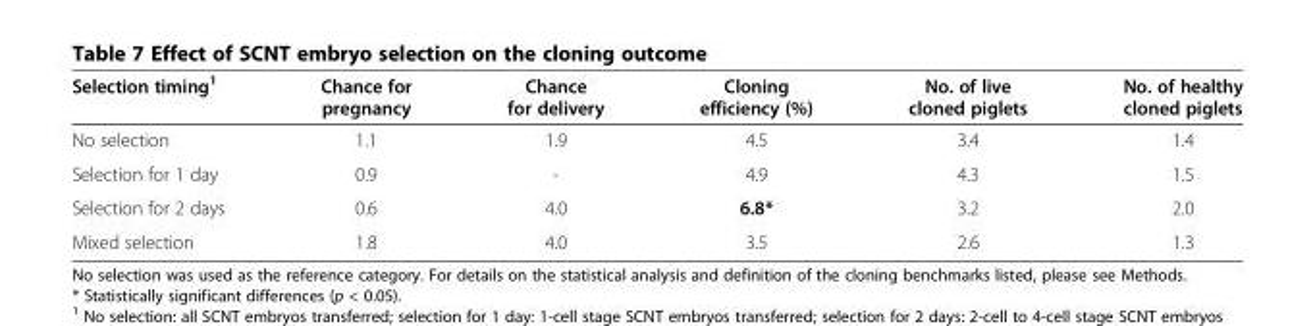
<table><thead><tr><td>Selection timing<sup>1</sup></td><td>Chance for pregnancy</td><td>Chance for delivery</td><td>Cloning efficiency (%)</td><td>No. of live cloned piglets</td><td>No. of healthy cloned piglets</td></tr></thead><tbody><tr><td>No selection</td><td>1.1</td><td>1.9</td><td>4.5</td><td>3.4</td><td>1.4</td></tr><tr><td>Selection for 1 day</td><td>0.9</td><td>-</td><td>4.9</td><td>4.3</td><td>1.5</td></tr><tr><td>Selection for 2 days</td><td>0.6</td><td>4.0</td><td>6.8*</td><td>3.2</td><td>2.0</td></tr><tr><td>Mixed selection</td><td>1.8</td><td>4.0</td><td>3.5</td><td>2.6</td><td>1.3</td></tr></tbody></table>